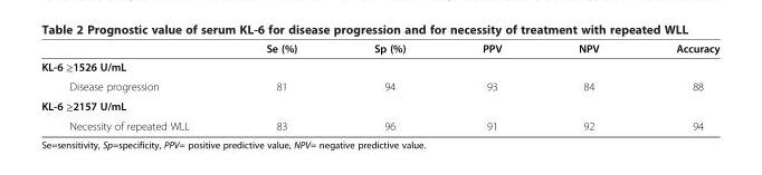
<table><thead><tr><td></td><td>Se (%)</td><td>Sp (%)</td><td>PPV</td><td>NPV</td><td>Accuracy</td></tr></thead><tbody><tr><td colspan="6">KL-6 ≥1526 U/mL</td></tr><tr><td>Disease progression</td><td>81</td><td>94</td><td>93</td><td>84</td><td>88</td></tr><tr><td colspan="6">KL-6 ≥2157 U/mL</td></tr><tr><td>Necessity of repeated WLL</td><td>83</td><td>96</td><td>91</td><td>92</td><td>94</td></tr></tbody></table>